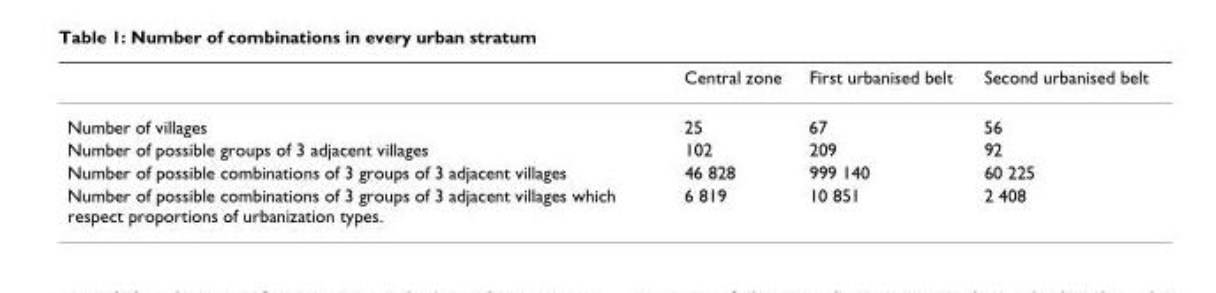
<table><thead><tr><td></td><td>Central zone</td><td>First urbanised belt</td><td>Second urbanised belt</td></tr></thead><tbody><tr><td>Number of villages</td><td>25</td><td>67</td><td>56</td></tr><tr><td>Number of possible groups of 3 adjacent villages</td><td>102</td><td>209</td><td>92</td></tr><tr><td>Number of possible combinations of 3 groups of 3 adjacent villages</td><td>46 828</td><td>999 140</td><td>60 225</td></tr><tr><td>Number of possible combinations of 3 groups of 3 adjacent villages which respect proportions of urbanization types.</td><td>6 819</td><td>10 851</td><td>2 408</td></tr></tbody></table>